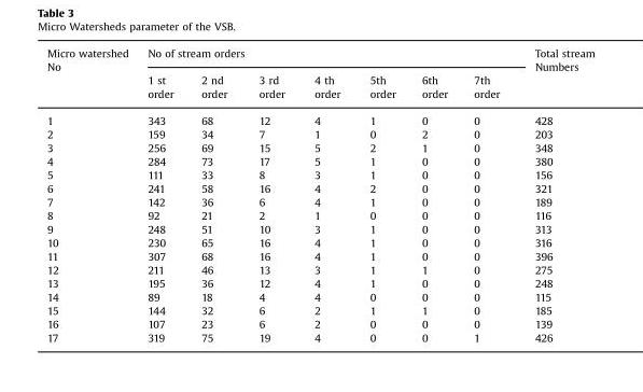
<table><thead><tr><td rowspan="2">Micro watershed No</td><td colspan="7">No of stream orders</td><td rowspan="2">Total stream Numbers</td></tr><tr><td>1 st order</td><td>2 nd order</td><td>3 rd order</td><td>4 th order</td><td>5th order</td><td>6th order</td><td>7th order</td></tr></thead><tbody><tr><td>1</td><td>343</td><td>68</td><td>12</td><td>4</td><td>1</td><td>0</td><td>0</td><td>428</td></tr><tr><td>2</td><td>159</td><td>34</td><td>7</td><td>1</td><td>0</td><td>2</td><td>0</td><td>203</td></tr><tr><td>3</td><td>256</td><td>69</td><td>15</td><td>5</td><td>2</td><td>1</td><td>0</td><td>348</td></tr><tr><td>4</td><td>284</td><td>73</td><td>17</td><td>5</td><td>1</td><td>0</td><td>0</td><td>380</td></tr><tr><td>5</td><td>111</td><td>33</td><td>8</td><td>3</td><td>1</td><td>0</td><td>0</td><td>156</td></tr><tr><td>6</td><td>241</td><td>58</td><td>16</td><td>4</td><td>2</td><td>0</td><td>0</td><td>321</td></tr><tr><td>7</td><td>142</td><td>36</td><td>6</td><td>4</td><td>1</td><td>0</td><td>0</td><td>189</td></tr><tr><td>8</td><td>92</td><td>21</td><td>2</td><td>1</td><td>0</td><td>0</td><td>0</td><td>116</td></tr><tr><td>9</td><td>248</td><td>51</td><td>10</td><td>3</td><td>1</td><td>0</td><td>0</td><td>313</td></tr><tr><td>10</td><td>230</td><td>65</td><td>16</td><td>4</td><td>1</td><td>0</td><td>0</td><td>316</td></tr><tr><td>11</td><td>307</td><td>68</td><td>16</td><td>4</td><td>1</td><td>0</td><td>0</td><td>396</td></tr><tr><td>12</td><td>211</td><td>46</td><td>13</td><td>3</td><td>1</td><td>1</td><td>0</td><td>275</td></tr><tr><td>13</td><td>195</td><td>36</td><td>12</td><td>4</td><td>1</td><td>0</td><td>0</td><td>248</td></tr><tr><td>14</td><td>89</td><td>18</td><td>4</td><td>4</td><td>0</td><td>0</td><td>0</td><td>115</td></tr><tr><td>15</td><td>144</td><td>32</td><td>6</td><td>2</td><td>1</td><td>1</td><td>0</td><td>185</td></tr><tr><td>16</td><td>107</td><td>23</td><td>6</td><td>2</td><td>0</td><td>0</td><td>0</td><td>139</td></tr><tr><td>17</td><td>319</td><td>75</td><td>19</td><td>4</td><td>0</td><td>0</td><td>1</td><td>426</td></tr></tbody></table>